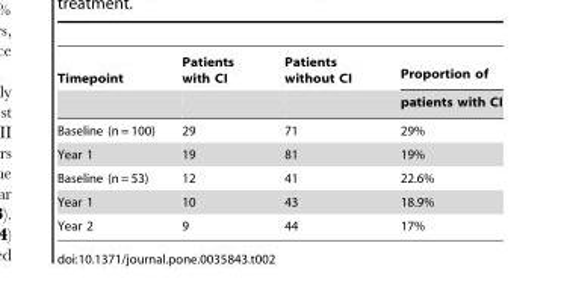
<table><thead><tr><td rowspan="2">Timepoint</td><td rowspan="2">Patients with CI</td><td rowspan="2">Patients without CI</td><td rowspan="2">Proportion of patients with CI</td></tr><tr></tr></thead><tbody><tr><td>Baseline (n = 100)</td><td>29</td><td>71</td><td>29%</td></tr><tr><td>Year 1</td><td>19</td><td>81</td><td>19%</td></tr><tr><td>Baseline (n = 53)</td><td>12</td><td>41</td><td>22.6%</td></tr><tr><td>Year 1</td><td>10</td><td>43</td><td>18.9%</td></tr><tr><td>Year 2</td><td>9</td><td>44</td><td>17%</td></tr></tbody></table>